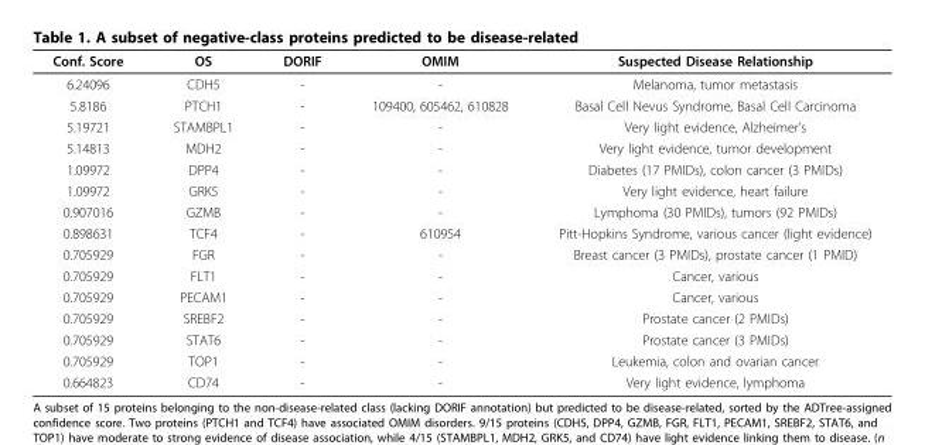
<table><thead><tr><td>Conf. Score</td><td>OS</td><td>DORIF</td><td>OMIM</td><td>Suspected Disease Relationship</td></tr></thead><tbody><tr><td>6.24096</td><td>CDH5</td><td>-</td><td>-</td><td>Melanoma, tumor metastasis</td></tr><tr><td>5.8186</td><td>PTCH1</td><td>-</td><td>109400, 605462, 610828</td><td>Basal Cell Nevus Syndrome, Basal Cell Carcinoma</td></tr><tr><td>5.19721</td><td>STAMBPL1</td><td>-</td><td>-</td><td>Very light evidence, Alzheimer’s</td></tr><tr><td>5.14813</td><td>MDH2</td><td>-</td><td>-</td><td>Very light evidence, tumor development</td></tr><tr><td>1.09972</td><td>DPP4</td><td>-</td><td>-</td><td>Diabetes (17 PMIDs), colon cancer (3 PMIDs)</td></tr><tr><td>1.09972</td><td>GRK5</td><td>-</td><td>-</td><td>Very light evidence, heart failure</td></tr><tr><td>0.907016</td><td>GZMB</td><td>-</td><td>-</td><td>Lymphoma (30 PMIDs), tumors (92 PMIDs)</td></tr><tr><td>0.898631</td><td>TCF4</td><td>-</td><td>610954</td><td>Pitt-Hopkins Syndrome, various cancer (light evidence)</td></tr><tr><td>0.705929</td><td>FGR</td><td>-</td><td>-</td><td>Breast cancer (3 PMIDs), prostate cancer (1 PMID)</td></tr><tr><td>0.705929</td><td>FLT1</td><td>-</td><td>-</td><td>Cancer, various</td></tr><tr><td>0.705929</td><td>PECAM1</td><td>-</td><td>-</td><td>Cancer, various</td></tr><tr><td>0.705929</td><td>SREBF2</td><td>-</td><td>-</td><td>Prostate cancer (2 PMIDs)</td></tr><tr><td>0.705929</td><td>STAT6</td><td>-</td><td>-</td><td>Prostate cancer (3 PMIDs)</td></tr><tr><td>0.705929</td><td>TOP1</td><td>-</td><td>-</td><td>Leukemia, colon and ovarian cancer</td></tr><tr><td>0.664823</td><td>CD74</td><td>-</td><td>-</td><td>Very light evidence, lymphoma</td></tr></tbody></table>